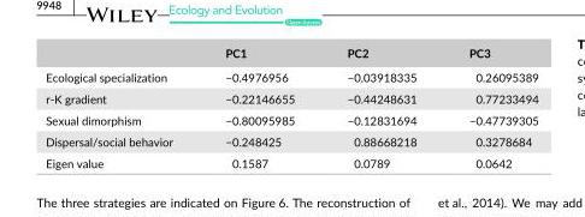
<table><thead><tr><td></td><td>PC1</td><td>PC2</td><td>PC3</td></tr></thead><tbody><tr><td>Ecological specialization</td><td>−0.4976956</td><td>−0.03918335</td><td>0.26095389</td></tr><tr><td>r- K gradient</td><td>−0.22146655</td><td>−0.44248631</td><td>0.77233494</td></tr><tr><td>Sexual dimorphism</td><td>−0.80095985</td><td>−0.12831694</td><td>−0.47739305</td></tr><tr><td>Dispersal/social behavior</td><td>−0.248425</td><td>0.88668218</td><td>0.3278684</td></tr><tr><td>Eigen value</td><td>0.1587</td><td>0.0789</td><td>0.0642</td></tr></tbody></table>